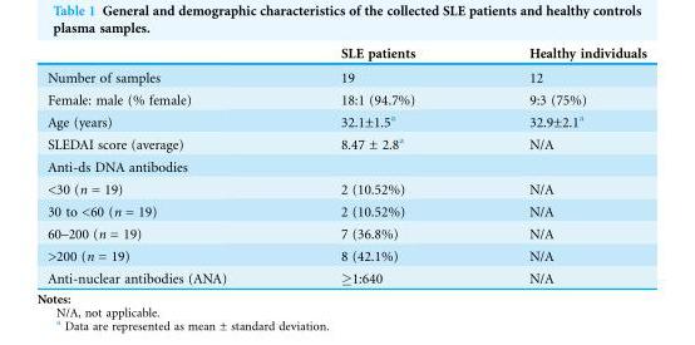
<table><thead><tr><td></td><td>SLE patients</td><td>Healthy individuals</td></tr></thead><tbody><tr><td>Number of samples</td><td>19</td><td>12</td></tr><tr><td>Female: male (% female)</td><td>18:1 (94.7%)</td><td>9:3 (75%)</td></tr><tr><td>Age (years)</td><td>32.1±1.5<sup>a</sup></td><td>32.9±2.1<sup>a</sup></td></tr><tr><td>SLEDAI score (average)</td><td>8.47 ± 2.8<sup>a</sup></td><td>N/A</td></tr><tr><td colspan="3">Anti-ds DNA antibodies</td></tr><tr><td>&lt;30 (n = 19)</td><td>2 (10.52%)</td><td>N/A</td></tr><tr><td>30 to &lt;60 (n = 19)</td><td>2 (10.52%)</td><td>N/A</td></tr><tr><td>60–200 (n = 19)</td><td>7 (36.8%)</td><td>N/A</td></tr><tr><td>&gt;200 (n = 19)</td><td>8 (42.1%)</td><td>N/A</td></tr><tr><td>Anti-nuclear antibodies (ANA)</td><td>≥1:640</td><td>N/A</td></tr></tbody></table>